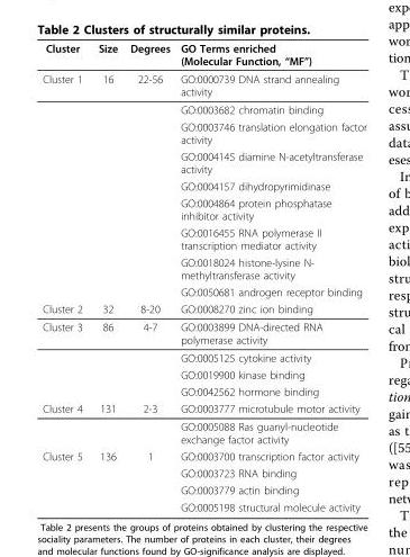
<table><thead><tr><td>Cluster</td><td>Size</td><td>Degrees</td><td>GO Terms enriched (Molecular Function, “MF”)</td></tr></thead><tbody><tr><td rowspan="9">Cluster 1</td><td>16</td><td>22-56</td><td>GO:0000739 DNA strand annealing activity</td></tr><tr><td></td><td></td><td>GO:0003682 chromatin binding</td></tr><tr><td></td><td></td><td>GO:0003746 translation elongation factor activity</td></tr><tr><td></td><td></td><td>GO:0004145 diamine N-acetyltransferase activity</td></tr><tr><td></td><td></td><td>GO:0004157 dihydropyrimidinase</td></tr><tr><td></td><td></td><td>GO:0004864 protein phosphatase inhibitor activity</td></tr><tr><td></td><td></td><td>GO:0016455 RNA polymerase II transcription mediator activity</td></tr><tr><td></td><td></td><td>GO:0018024 histone-lysine N- methyltransferase activity</td></tr><tr><td></td><td></td><td>GO:0050681 androgen receptor binding</td></tr><tr><td>Cluster 2</td><td>32</td><td>8-20</td><td>GO:0008270 zinc ion binding</td></tr><tr><td rowspan="4">Cluster 3</td><td>86</td><td>4-7</td><td>GO:0003899 DNA-directed RNA polymerase activity</td></tr><tr><td></td><td></td><td>GO:0005125 cytokine activity</td></tr><tr><td></td><td></td><td>GO:0019900 kinase binding</td></tr><tr><td></td><td></td><td>GO:0042562 hormone binding</td></tr><tr><td rowspan="2">Cluster 4</td><td>131</td><td>2-3</td><td>GO:0003777 microtubule motor activity</td></tr><tr><td></td><td></td><td>GO:0005088 Ras guanyl-nucleotide exchange factor activity</td></tr><tr><td rowspan="4">Cluster 5</td><td>136</td><td>1</td><td>GO:0003700 transcription factor activity</td></tr><tr><td></td><td></td><td>GO:0003723 RNA binding</td></tr><tr><td></td><td></td><td>GO:0003779 actin binding</td></tr><tr><td></td><td></td><td>GO:0005198 structural molecule activity</td></tr></tbody></table>